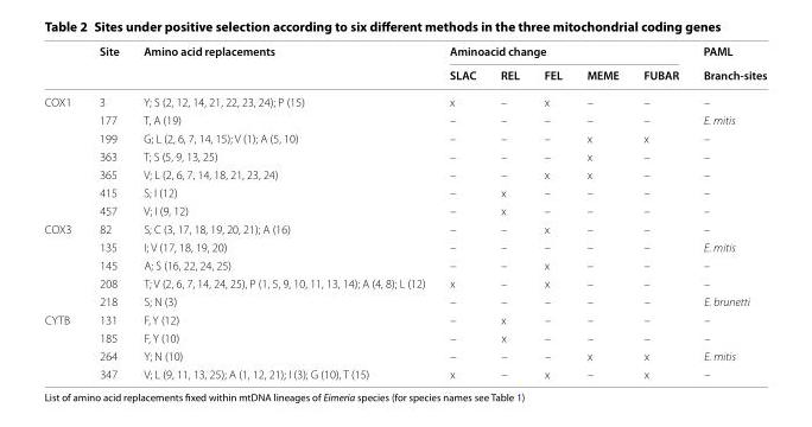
<table><thead><tr><td rowspan="2"></td><td rowspan="2">Site</td><td rowspan="2">Amino acid replacements</td><td colspan="5">Aminoacid change</td><td rowspan="2">PAML Branch-sites</td></tr><tr><td>SLAC</td><td>REL</td><td>FEL</td><td>MEME</td><td>FUBAR</td></tr></thead><tbody><tr><td rowspan="7">COX1</td><td>3</td><td>Y; S (2, 12, 14, 21, 22, 23, 24); P (15)</td><td>x</td><td>–</td><td>x</td><td>–</td><td>–</td><td>–</td></tr><tr><td>177</td><td>T, A (19)</td><td>–</td><td>–</td><td>–</td><td>–</td><td>–</td><td>E. mitis</td></tr><tr><td>199</td><td>G; L (2, 6, 7, 14, 15); V (1); A (5, 10)</td><td>–</td><td>–</td><td>–</td><td>x</td><td>x</td><td>–</td></tr><tr><td>363</td><td>T; S (5, 9, 13, 25)</td><td>–</td><td>–</td><td>–</td><td>x</td><td>–</td><td>–</td></tr><tr><td>365</td><td>V; L (2, 6, 7, 14, 18, 21, 23, 24)</td><td>–</td><td>–</td><td>x</td><td>x</td><td>–</td><td>–</td></tr><tr><td>415</td><td>S; I (12)</td><td>–</td><td>x</td><td>–</td><td>–</td><td>–</td><td>–</td></tr><tr><td>457</td><td>V; I (9, 12)</td><td>–</td><td>x</td><td>–</td><td>–</td><td>–</td><td>–</td></tr><tr><td rowspan="5">COX3</td><td>82</td><td>S; C (3, 17, 18, 19, 20, 21); A (16)</td><td>–</td><td>–</td><td>x</td><td>–</td><td>–</td><td>–</td></tr><tr><td>135</td><td>I; V (17, 18, 19, 20)</td><td>–</td><td>–</td><td>–</td><td>–</td><td>–</td><td>E. mitis</td></tr><tr><td>145</td><td>A; S (16, 22, 24, 25)</td><td>–</td><td>–</td><td>x</td><td>–</td><td>–</td><td>–</td></tr><tr><td>208</td><td>T; V (2, 6, 7, 14, 24, 25), P (1, 5, 9, 10, 11, 13, 14); A (4, 8); L (12)</td><td>x</td><td>–</td><td>x</td><td>–</td><td>–</td><td>–</td></tr><tr><td>218</td><td>S; N (3)</td><td>–</td><td>–</td><td>–</td><td>–</td><td>–</td><td>E. brunetti</td></tr><tr><td rowspan="4">CYTB</td><td>131</td><td>F, Y (12)</td><td>–</td><td>x</td><td>–</td><td>–</td><td>–</td><td>–</td></tr><tr><td>185</td><td>F, Y (10)</td><td>–</td><td>x</td><td>–</td><td>–</td><td>–</td><td>–</td></tr><tr><td>264</td><td>Y; N (10)</td><td>–</td><td>–</td><td>–</td><td>x</td><td>x</td><td>E. mitis</td></tr><tr><td>347</td><td>V; L (9, 11, 13, 25); A (1, 12, 21); I (3); G (10), T (15)</td><td>x</td><td>–</td><td>x</td><td>–</td><td>x</td><td>–</td></tr></tbody></table>